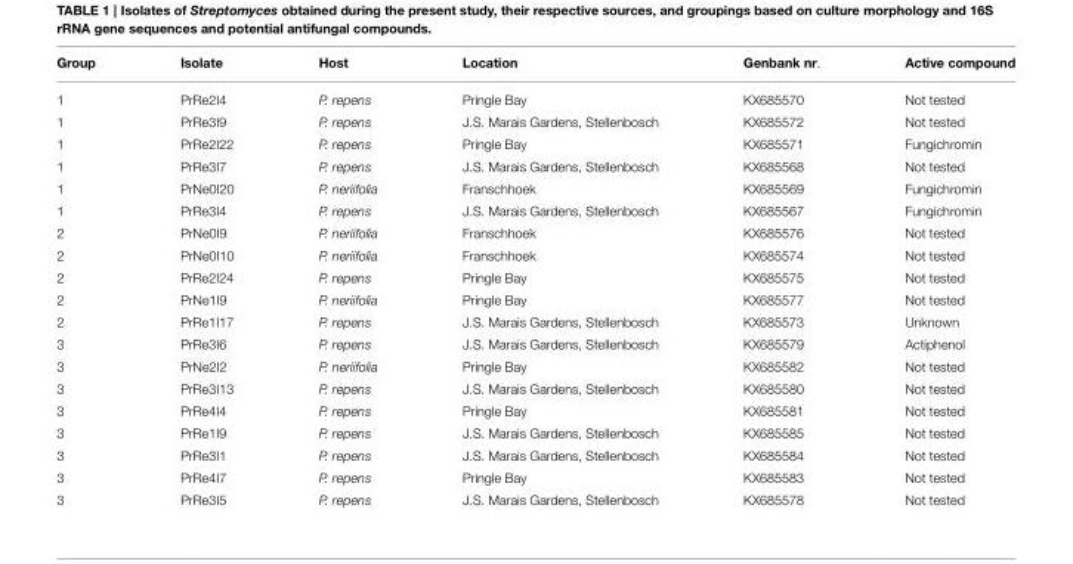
<table><thead><tr><td>Group</td><td>Isolate</td><td>Host</td><td>Location</td><td>Genbank nr.</td><td>Active compound</td></tr></thead><tbody><tr><td>1</td><td>PrRe2I4</td><td>P. repens</td><td>Pringle Bay</td><td>KX685570</td><td>Not tested</td></tr><tr><td>1</td><td>PrRe3I9</td><td>P. repens</td><td>J.S. Marais Gardens, Stellenbosch</td><td>KX685572</td><td>Not tested</td></tr><tr><td>1</td><td>PrRe2I22</td><td>P. repens</td><td>Pringle Bay</td><td>KX685571</td><td>Fungichromin</td></tr><tr><td>1</td><td>PrRe3I7</td><td>P. repens</td><td>J.S. Marais Gardens, Stellenbosch</td><td>KX685568</td><td>Not tested</td></tr><tr><td>1</td><td>PrNe0I20</td><td>P. neriifolia</td><td>Franschhoek</td><td>KX685569</td><td>Fungichromin</td></tr><tr><td>1</td><td>PrRe3I4</td><td>P. repens</td><td>J.S. Marais Gardens, Stellenbosch</td><td>KX685567</td><td>Fungichromin</td></tr><tr><td>2</td><td>PrNe0I9</td><td>P. neriifolia</td><td>Franschhoek</td><td>KX685576</td><td>Not tested</td></tr><tr><td>2</td><td>PrNe0I10</td><td>P. neriifolia</td><td>Franschhoek</td><td>KX685574</td><td>Not tested</td></tr><tr><td>2</td><td>PrRe2I24</td><td>P. repens</td><td>Pringle Bay</td><td>KX685575</td><td>Not tested</td></tr><tr><td>2</td><td>PrNe1I9</td><td>P. neriifolia</td><td>Pringle Bay</td><td>KX685577</td><td>Not tested</td></tr><tr><td>2</td><td>PrRe1I17</td><td>P. repens</td><td>J.S. Marais Gardens, Stellenbosch</td><td>KX685573</td><td>Unknown</td></tr><tr><td>3</td><td>PrRe3I6</td><td>P. repens</td><td>J.S. Marais Gardens, Stellenbosch</td><td>KX685579</td><td>Actiphenol</td></tr><tr><td>3</td><td>PrNe2I2</td><td>P. neriifolia</td><td>Pringle Bay</td><td>KX685582</td><td>Not tested</td></tr><tr><td>3</td><td>PrRe3I13</td><td>P. repens</td><td>J.S. Marais Gardens, Stellenbosch</td><td>KX685580</td><td>Not tested</td></tr><tr><td>3</td><td>PrRe4I4</td><td>P. repens</td><td>Pringle Bay</td><td>KX685581</td><td>Not tested</td></tr><tr><td>3</td><td>PrRe1I9</td><td>P. repens</td><td>J.S. Marais Gardens, Stellenbosch</td><td>KX685585</td><td>Not tested</td></tr><tr><td>3</td><td>PrRe3I1</td><td>P. repens</td><td>J.S. Marais Gardens, Stellenbosch</td><td>KX685584</td><td>Not tested</td></tr><tr><td>3</td><td>PrRe4I7</td><td>P. repens</td><td>Pringle Bay</td><td>KX685583</td><td>Not tested</td></tr><tr><td>3</td><td>PrRe3I5</td><td>P. repens</td><td>J.S. Marais Gardens, Stellenbosch</td><td>KX685578</td><td>Not tested</td></tr></tbody></table>